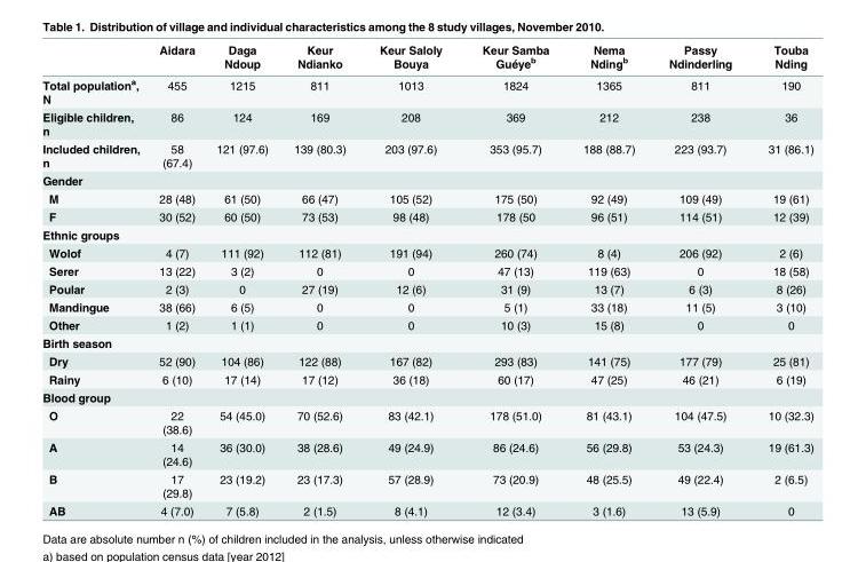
<table><thead><tr><td></td><td>Aidara</td><td>Daga Ndoup</td><td>Keur Ndianko</td><td>Keur Saloly Bouya</td><td>Keur Samba Guéye<sup>b</sup></td><td>Nema Nding<sup>b</sup></td><td>Passy Ndinderling</td><td>Touba Nding</td></tr></thead><tbody><tr><td>Total population<sup>a</sup>, N</td><td>455</td><td>1215</td><td>811</td><td>1013</td><td>1824</td><td>1365</td><td>811</td><td>190</td></tr><tr><td>Eligible children, n</td><td>86</td><td>124</td><td>169</td><td>208</td><td>369</td><td>212</td><td>238</td><td>36</td></tr><tr><td>Included children, n</td><td>58 (67.4)</td><td>121 (97.6)</td><td>139 (80.3)</td><td>203 (97.6)</td><td>353 (95.7)</td><td>188 (88.7)</td><td>223 (93.7)</td><td>31 (86.1)</td></tr><tr><td colspan="9">Gender</td></tr><tr><td>M</td><td>28 (48)</td><td>61 (50)</td><td>66 (47)</td><td>105 (52)</td><td>175 (50)</td><td>92 (49)</td><td>109 (49)</td><td>19 (61)</td></tr><tr><td>F</td><td>30 (52)</td><td>60 (50)</td><td>73 (53)</td><td>98 (48)</td><td>178 (50</td><td>96 (51)</td><td>114 (51)</td><td>12 (39)</td></tr><tr><td colspan="9">Ethnic groups</td></tr><tr><td>Wolof</td><td>4 (7)</td><td>111 (92)</td><td>112 (81)</td><td>191 (94)</td><td>260 (74)</td><td>8 (4)</td><td>206 (92)</td><td>2 (6)</td></tr><tr><td>Serer</td><td>13 (22)</td><td>3 (2)</td><td>0</td><td>0</td><td>47 (13)</td><td>119 (63)</td><td>0</td><td>18 (58)</td></tr><tr><td>Poular</td><td>2 (3)</td><td>0</td><td>27 (19)</td><td>12 (6)</td><td>31 (9)</td><td>13 (7)</td><td>6 (3)</td><td>8 (26)</td></tr><tr><td>Mandingue</td><td>38 (66)</td><td>6 (5)</td><td>0</td><td>0</td><td>5 (1)</td><td>33 (18)</td><td>11 (5)</td><td>3 (10)</td></tr><tr><td>Other</td><td>1 (2)</td><td>1 (1)</td><td>0</td><td>0</td><td>10 (3)</td><td>15 (8)</td><td>0</td><td>0</td></tr><tr><td colspan="9">Birth season</td></tr><tr><td>Dry</td><td>52 (90)</td><td>104 (86)</td><td>122 (88)</td><td>167 (82)</td><td>293 (83)</td><td>141 (75)</td><td>177 (79)</td><td>25 (81)</td></tr><tr><td>Rainy</td><td>6 (10)</td><td>17 (14)</td><td>17 (12)</td><td>36 (18)</td><td>60 (17)</td><td>47 (25)</td><td>46 (21)</td><td>6 (19)</td></tr><tr><td colspan="9">Blood group</td></tr><tr><td>O</td><td>22 (38.6)</td><td>54 (45.0)</td><td>70 (52.6)</td><td>83 (42.1)</td><td>178 (51.0)</td><td>81 (43.1)</td><td>104 (47.5)</td><td>10 (32.3)</td></tr><tr><td>A</td><td>14 (24.6)</td><td>36 (30.0)</td><td>38 (28.6)</td><td>49 (24.9)</td><td>86 (24.6)</td><td>56 (29.8)</td><td>53 (24.3)</td><td>19 (61.3)</td></tr><tr><td>B</td><td>17 (29.8)</td><td>23 (19.2)</td><td>23 (17.3)</td><td>57 (28.9)</td><td>73 (20.9)</td><td>48 (25.5)</td><td>49 (22.4)</td><td>2 (6.5)</td></tr><tr><td>AB</td><td>4 (7.0)</td><td>7 (5.8)</td><td>2 (1.5)</td><td>8 (4.1)</td><td>12 (3.4)</td><td>3 (1.6)</td><td>13 (5.9)</td><td>0</td></tr></tbody></table>